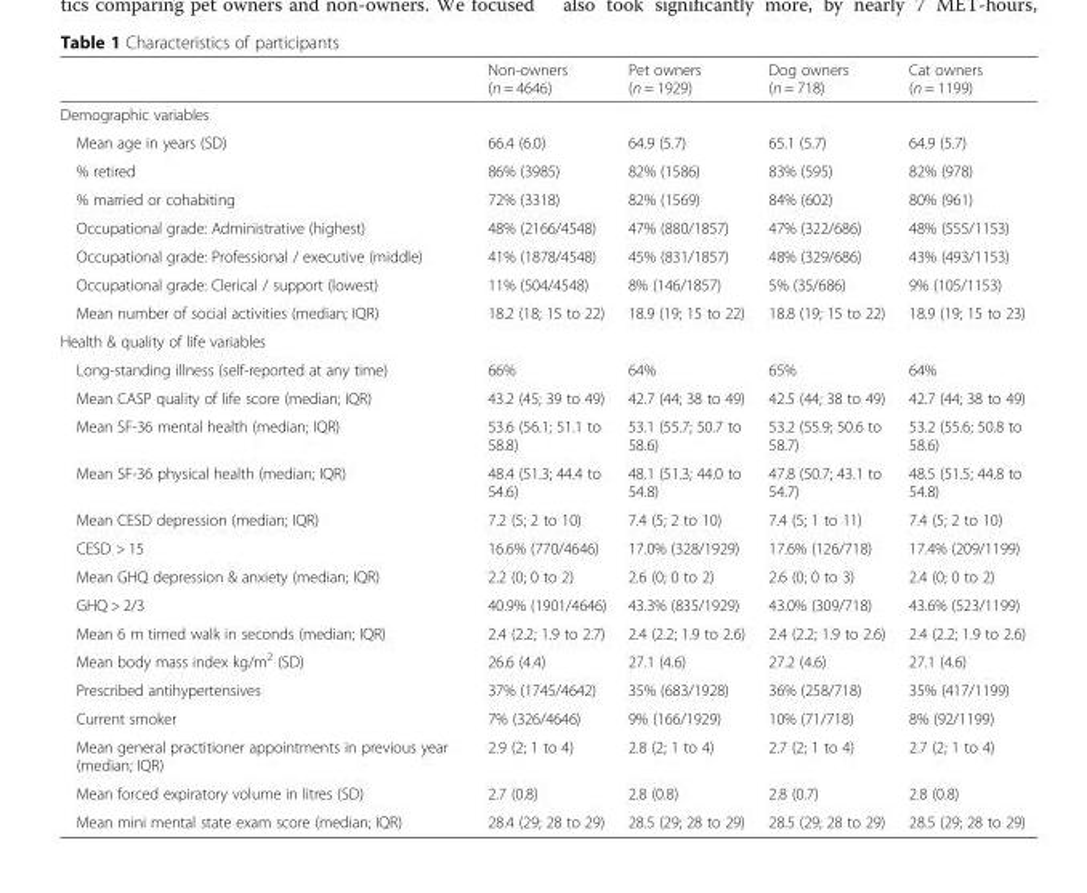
<table><thead><tr><td></td><td>Non-owners (n = 4646)</td><td>Pet owners (n = 1929)</td><td>Dog owners (n = 718)</td><td>Cat owners (n = 1199)</td></tr></thead><tbody><tr><td colspan="5">Demographic variables</td></tr><tr><td>Mean age in years (SD)</td><td>66.4 (6.0)</td><td>64.9 (5.7)</td><td>65.1 (5.7)</td><td>64.9 (5.7)</td></tr><tr><td>% retired</td><td>86% (3985)</td><td>82% (1586)</td><td>83% (595)</td><td>82% (978)</td></tr><tr><td>% married or cohabiting</td><td>72% (3318)</td><td>82% (1569)</td><td>84% (602)</td><td>80% (961)</td></tr><tr><td>Occupational grade: Administrative (highest)</td><td>48% (2166/4548)</td><td>47% (880/1857)</td><td>47% (322/686)</td><td>48% (555/1153)</td></tr><tr><td>Occupational grade: Professional / executive (middle)</td><td>41% (1878/4548)</td><td>45% (831/1857)</td><td>48% (329/686)</td><td>43% (493/1153)</td></tr><tr><td>Occupational grade: Clerical / support (lowest)</td><td>11% (504/4548)</td><td>8% (146/1857)</td><td>5% (35/686)</td><td>9% (105/1153)</td></tr><tr><td>Mean number of social activities (median; IQR)</td><td>18.2 (18; 15 to 22)</td><td>18.9 (19; 15 to 22)</td><td>18.8 (19; 15 to 22)</td><td>18.9 (19; 15 to 23)</td></tr><tr><td colspan="5">Health &amp; quality of life variables</td></tr><tr><td>Long-standing illness (self-reported at any time)</td><td>66%</td><td>64%</td><td>65%</td><td>64%</td></tr><tr><td>Mean CASP quality of life score (median; IQR)</td><td>43.2 (45; 39 to 49)</td><td>42.7 (44; 38 to 49)</td><td>42.5 (44; 38 to 49)</td><td>42.7 (44; 38 to 49)</td></tr><tr><td>Mean SF-36 mental health (median; IQR)</td><td>53.6 (56.1; 51.1 to 58.8)</td><td>53.1 (55.7; 50.7 to 58.6)</td><td>53.2 (55.9; 50.6 to 58.7)</td><td>53.2 (55.6; 50.8 to 58.6)</td></tr><tr><td>Mean SF-36 physical health (median; IQR)</td><td>48.4 (51.3; 44.4 to 54.6)</td><td>48.1 (51.3; 44.0 to 54.8)</td><td>47.8 (50.7; 43.1 to 54.7)</td><td>48.5 (51.5; 44.8 to 54.8)</td></tr><tr><td>Mean CESD depression (median; IQR)</td><td>7.2 (5; 2 to 10)</td><td>7.4 (5; 2 to 10)</td><td>7.4 (5; 1 to 11)</td><td>7.4 (5; 2 to 10)</td></tr><tr><td>CESD &gt; 15</td><td>16.6% (770/4646)</td><td>17.0% (328/1929)</td><td>17.6% (126/718)</td><td>17.4% (209/1199)</td></tr><tr><td>Mean GHQ depression &amp; anxiety (median; IQR)</td><td>2.2 (0; 0 to 2)</td><td>2.6 (0; 0 to 2)</td><td>2.6 (0; 0 to 3)</td><td>2.4 (0; 0 to 2)</td></tr><tr><td>GHQ &gt; 2/3</td><td>40.9% (1901/4646)</td><td>43.3% (835/1929)</td><td>43.0% (309/718)</td><td>43.6% (523/1199)</td></tr><tr><td>Mean 6 m timed walk in seconds (median; IQR)</td><td>2.4 (2.2; 1.9 to 2.7)</td><td>2.4 (2.2; 1.9 to 2.6)</td><td>2.4 (2.2; 1.9 to 2.6)</td><td>2.4 (2.2; 1.9 to 2.6)</td></tr><tr><td>Mean body mass index kg/m<sup>2</sup> (SD)</td><td>26.6 (4.4)</td><td>27.1 (4.6)</td><td>27.2 (4.6)</td><td>27.1 (4.6)</td></tr><tr><td>Prescribed antihypertensives</td><td>37% (1745/4642)</td><td>35% (683/1928)</td><td>36% (258/718)</td><td>35% (417/1199)</td></tr><tr><td>Current smoker</td><td>7% (326/4646)</td><td>9% (166/1929)</td><td>10% (71/718)</td><td>8% (92/1199)</td></tr><tr><td>Mean general practitioner appointments in previous year (median; IQR)</td><td>2.9 (2; 1 to 4)</td><td>2.8 (2; 1 to 4)</td><td>2.7 (2; 1 to 4)</td><td>2.7 (2; 1 to 4)</td></tr><tr><td>Mean forced expiratory volume in litres (SD)</td><td>2.7 (0.8)</td><td>2.8 (0.8)</td><td>2.8 (0.7)</td><td>2.8 (0.8)</td></tr><tr><td>Mean mini mental state exam score (median; IQR)</td><td>28.4 (29; 28 to 29)</td><td>28.5 (29; 28 to 29)</td><td>28.5 (29; 28 to 29)</td><td>28.5 (29; 28 to 29)</td></tr></tbody></table>